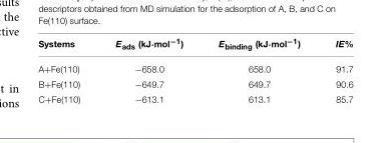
<table><thead><tr><td>Systems</td><td>E<sub>ads</sub> (kJ·mol<sup>−1</sup>)</td><td>E<sub>binding</sub> (kJ·mol<sup>−1</sup>)</td><td>IE%</td></tr></thead><tbody><tr><td>A+Fe(110)</td><td>−658.0</td><td>658.0</td><td>91.7</td></tr><tr><td>B+Fe(110)</td><td>−649.7</td><td>649.7</td><td>90.6</td></tr><tr><td>C+Fe(110)</td><td>−613.1</td><td>613.1</td><td>85.7</td></tr></tbody></table>